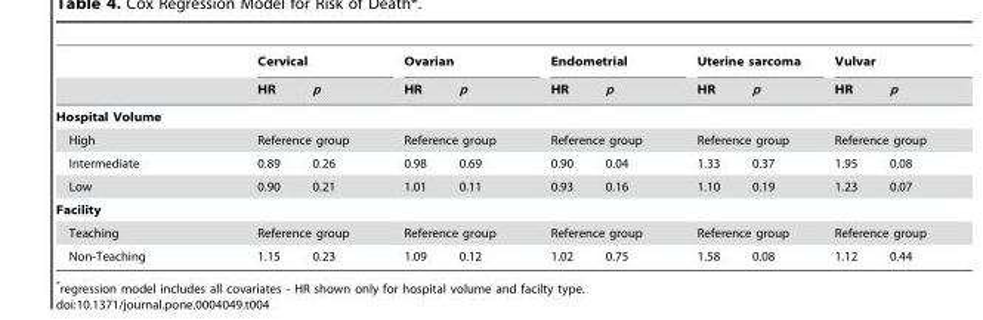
<table><thead><tr><td rowspan="2"></td><td colspan="2">Cervical</td><td colspan="2">Ovarian</td><td colspan="2">Endometrial</td><td colspan="2">Uterine sarcoma</td><td colspan="2">Vulvar</td></tr><tr><td>HR</td><td>p</td><td>HR</td><td>p</td><td>HR</td><td>p</td><td>HR</td><td>p</td><td>HR</td><td>p</td></tr></thead><tbody><tr><td colspan="11">Hospital Volume</td></tr><tr><td>High</td><td colspan="2">Reference group</td><td colspan="2">Reference group</td><td colspan="2">Reference group</td><td colspan="2">Reference group</td><td colspan="2">Reference group</td></tr><tr><td>Intermediate</td><td>0.89</td><td>0.26</td><td>0.98</td><td>0.69</td><td>0.90</td><td>0.04</td><td>1.33</td><td>0.37</td><td>1.95</td><td>0.08</td></tr><tr><td>Low</td><td>0.90</td><td>0.21</td><td>1.01</td><td>0.11</td><td>0.93</td><td>0.16</td><td>1.10</td><td>0.19</td><td>1.23</td><td>0.07</td></tr><tr><td colspan="11">Facility</td></tr><tr><td>Teaching</td><td colspan="2">Reference group</td><td colspan="2">Reference group</td><td colspan="2">Reference group</td><td colspan="2">Reference group</td><td colspan="2">Reference group</td></tr><tr><td>Non-Teaching</td><td>1.15</td><td>0.23</td><td>1.09</td><td>0.12</td><td>1.02</td><td>0.75</td><td>1.58</td><td>0.08</td><td>1.12</td><td>0.44</td></tr></tbody></table>